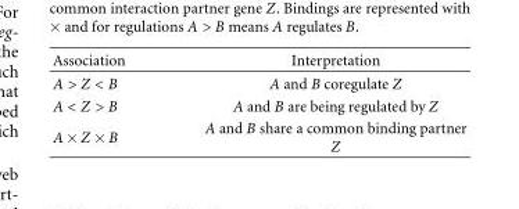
<table><thead><tr><td>Association</td><td>Interpretation</td></tr></thead><tbody><tr><td>A &gt; Z &lt; B</td><td>A and B coregulate Z</td></tr><tr><td>A &lt; Z &gt; B</td><td>A and B are being regulated by Z</td></tr><tr><td>A × Z × B</td><td>A and B share a common binding partner Z</td></tr></tbody></table>